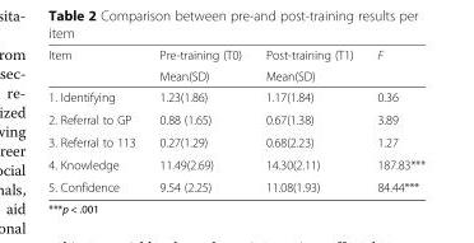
<table><thead><tr><td rowspan="2">Item</td><td rowspan="2">Pre-training (T0) Mean(SD)</td><td rowspan="2">Post-training (T1) Mean(SD)</td><td rowspan="2">F</td></tr><tr></tr></thead><tbody><tr><td>1. Identifying</td><td>1.23(1.86)</td><td>1.17(1.84)</td><td>0.36</td></tr><tr><td>2. Referral to GP</td><td>0.88 (1.65)</td><td>0.67(1.38)</td><td>3.89</td></tr><tr><td>3. Referral to 113</td><td>0.27(1.29)</td><td>0.68(2.23)</td><td>1.27</td></tr><tr><td>4. Knowledge</td><td>11.49(2.69)</td><td>14.30(2.11)</td><td>187.83***</td></tr><tr><td>5. Confidence</td><td>9.54 (2.25)</td><td>11.08(1.93)</td><td>84.44***</td></tr></tbody></table>